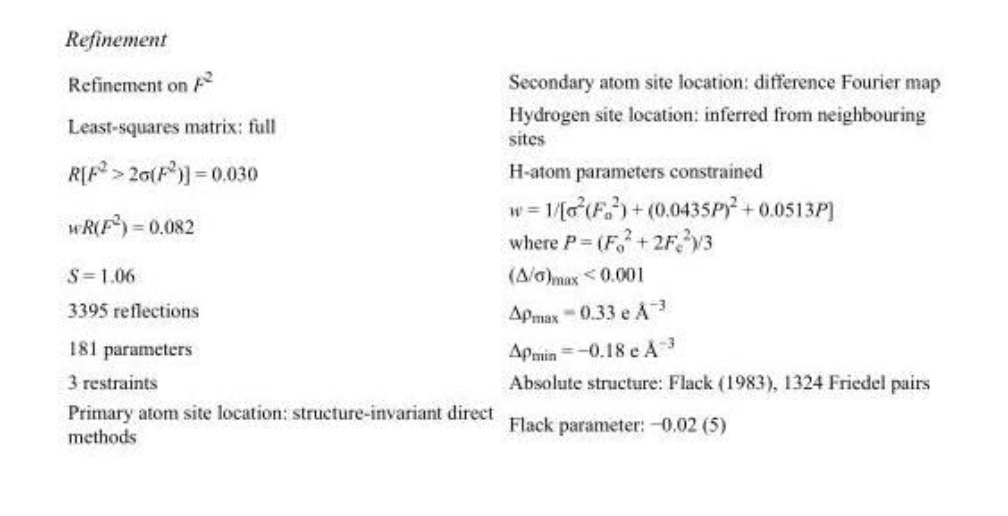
<table><tbody><tr><td>Refinement on F<sup>2</sup></td><td>Secondary atom site location: difference Fourier map</td></tr><tr><td>Least-squares matrix: full</td><td>Hydrogen site location: inferred from neighbouring sites</td></tr><tr><td>R[F<sup>2</sup> &gt; 2σ(F<sup>2</sup>)] = 0.030</td><td>H-atom parameters constrained</td></tr><tr><td>wR(F<sup>2</sup>) = 0.082</td><td>w = 1/[σ<sup>2</sup>(F<sub>o</sub> <sup>2</sup>) + (0.0435P)<sup>2</sup> + 0.0513P] where P = (F<sub>o</sub> <sup>2</sup> + 2F<sub>c</sub> <sup>2</sup>)/3</td></tr><tr><td>S = 1.06</td><td>(Δ/σ)<sub>max</sub> &lt; 0.001</td></tr><tr><td>3395 reflections</td><td>Δρ<sub>max</sub> = 0.33 e Å<sup>−3</sup></td></tr><tr><td>181 parameters</td><td>Δρ<sub>min</sub> = −0.18 e Å<sup>−3</sup></td></tr><tr><td>3 restraints</td><td>Absolute structure: Flack (1983), 1324 Friedel pairs</td></tr><tr><td>Primary atom site location: structure-invariant direct methods</td><td>Flack parameter: −0.02 (5)</td></tr></tbody></table>